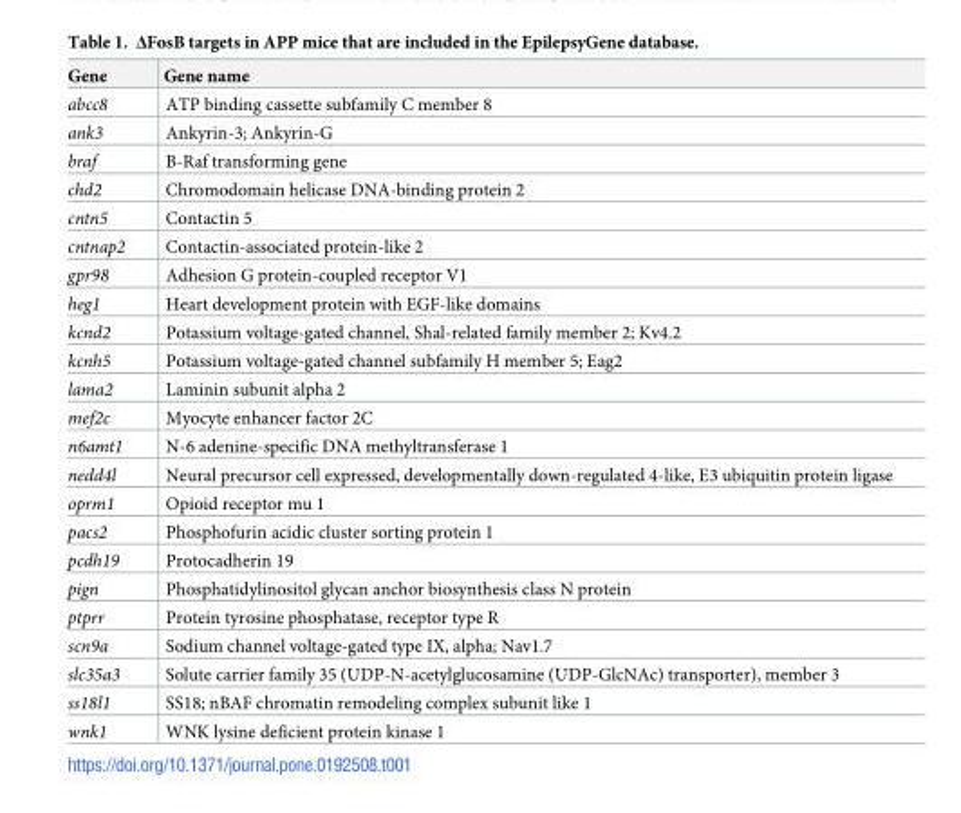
<table><thead><tr><td>Gene</td><td>Gene name</td></tr></thead><tbody><tr><td>abcc8</td><td>ATP binding cassette subfamily C member 8</td></tr><tr><td>ank3</td><td>Ankyrin-3; Ankyrin-G</td></tr><tr><td>braf</td><td>B-Raf transforming gene</td></tr><tr><td>chd2</td><td>Chromodomain helicase DNA-binding protein 2</td></tr><tr><td>cntn5</td><td>Contactin 5</td></tr><tr><td>cntnap2</td><td>Contactin-associated protein-like 2</td></tr><tr><td>gpr98</td><td>Adhesion G protein-coupled receptor V1</td></tr><tr><td>heg1</td><td>Heart development protein with EGF-like domains</td></tr><tr><td>kcnd2</td><td>Potassium voltage-gated channel, Shal-related family member 2; Kv4.2</td></tr><tr><td>kcnh5</td><td>Potassium voltage-gated channel subfamily H member 5; Eag2</td></tr><tr><td>lama2</td><td>Laminin subunit alpha 2</td></tr><tr><td>mef2c</td><td>Myocyte enhancer factor 2C</td></tr><tr><td>n6amt1</td><td>N-6 adenine-specific DNA methyltransferase 1</td></tr><tr><td>nedd4l</td><td>Neural precursor cell expressed, developmentally down-regulated 4-like, E3 ubiquitin protein ligase</td></tr><tr><td>oprm1</td><td>Opioid receptor mu 1</td></tr><tr><td>pacs2</td><td>Phosphofurin acidic cluster sorting protein 1</td></tr><tr><td>pcdh19</td><td>Protocadherin 19</td></tr><tr><td>pign</td><td>Phosphatidylinositol glycan anchor biosynthesis class N protein</td></tr><tr><td>ptprr</td><td>Protein tyrosine phosphatase, receptor type R</td></tr><tr><td>scn9a</td><td>Sodium channel voltage-gated type IX, alpha; Nav1.7</td></tr><tr><td>slc35a3</td><td>Solute carrier family 35 (UDP-N-acetylglucosamine (UDP-GlcNAc) transporter), member 3</td></tr><tr><td>ss18l1</td><td>SS18; nBAF chromatin remodeling complex subunit like 1</td></tr><tr><td>wnk1</td><td>WNK lysine deficient protein kinase 1</td></tr></tbody></table>